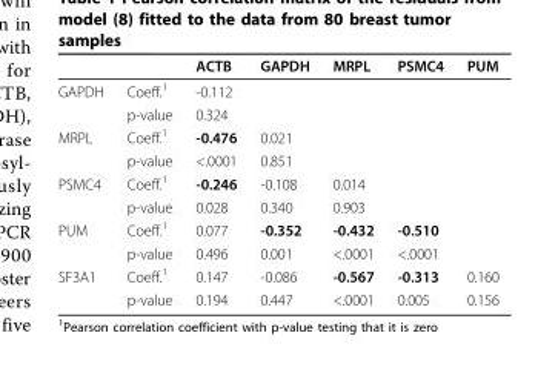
<table><thead><tr><td></td><td></td><td>ACTB</td><td>GAPDH</td><td>MRPL</td><td>PSMC4</td><td>PUM</td></tr></thead><tbody><tr><td rowspan="2">GAPDH</td><td>Coeff.<sup>1</sup></td><td>-0.112</td><td></td><td></td><td></td><td></td></tr><tr><td>p-value</td><td>0.324</td><td></td><td></td><td></td><td></td></tr><tr><td rowspan="2">MRPL</td><td>Coeff.<sup>1</sup></td><td>-0.476</td><td>0.021</td><td></td><td></td><td></td></tr><tr><td>p-value</td><td>&lt;.0001</td><td>0.851</td><td></td><td></td><td></td></tr><tr><td rowspan="2">PSMC4</td><td>Coeff.<sup>1</sup></td><td>-0.246</td><td>-0.108</td><td>0.014</td><td></td><td></td></tr><tr><td>p-value</td><td>0.028</td><td>0.340</td><td>0.903</td><td></td><td></td></tr><tr><td rowspan="2">PUM</td><td>Coeff.<sup>1</sup></td><td>0.077</td><td>-0.352</td><td>-0.432</td><td>-0.510</td><td></td></tr><tr><td>p-value</td><td>0.496</td><td>0.001</td><td>&lt;.0001</td><td>&lt;.0001</td><td></td></tr><tr><td rowspan="2">SF3A1</td><td>Coeff.<sup>1</sup></td><td>0.147</td><td>-0.086</td><td>-0.567</td><td>-0.313</td><td>0.160</td></tr><tr><td>p-value</td><td>0.194</td><td>0.447</td><td>&lt;.0001</td><td>0.005</td><td>0.156</td></tr></tbody></table>